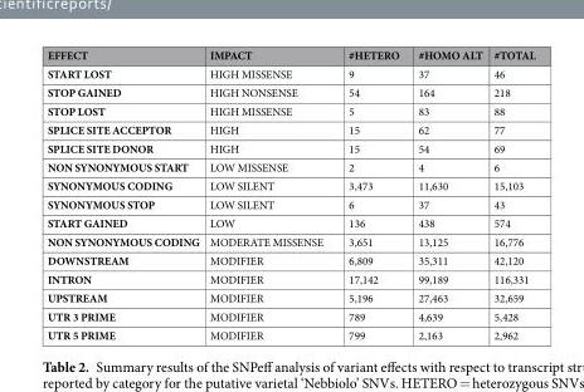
<table><thead><tr><td>EFFECT</td><td>IMPACT</td><td>#HETERO</td><td>#HOMO ALT</td><td>#TOTAL</td></tr></thead><tbody><tr><td>START LOST</td><td>HIGH MISSENSE</td><td>9</td><td>37</td><td>46</td></tr><tr><td>STOP GAINED</td><td>HIGH NONSENSE</td><td>54</td><td>164</td><td>218</td></tr><tr><td>STOP LOST</td><td>HIGH MISSENSE</td><td>5</td><td>83</td><td>88</td></tr><tr><td>SPLICE SITE ACCEPTOR</td><td>HIGH</td><td>15</td><td>62</td><td>77</td></tr><tr><td>SPLICE SITE DONOR</td><td>HIGH</td><td>15</td><td>54</td><td>69</td></tr><tr><td>NON SYNONYMOUS START</td><td>LOW MISSENSE</td><td>2</td><td>4</td><td>6</td></tr><tr><td>SYNONYMOUS CODING</td><td>LOW SILENT</td><td>3,473</td><td>11,630</td><td>15,103</td></tr><tr><td>SYNONYMOUS STOP</td><td>LOW SILENT</td><td>6</td><td>37</td><td>43</td></tr><tr><td>START GAINED</td><td>LOW</td><td>136</td><td>438</td><td>574</td></tr><tr><td>NON SYNONYMOUS CODING</td><td>MODERATE MISSENSE</td><td>3,651</td><td>13,125</td><td>16,776</td></tr><tr><td>DOWNSTREAM</td><td>MODIFIER</td><td>6,809</td><td>35,311</td><td>42,120</td></tr><tr><td>INTRON</td><td>MODIFIER</td><td>17,142</td><td>99,189</td><td>116,331</td></tr><tr><td>UPSTREAM</td><td>MODIFIER</td><td>5,196</td><td>27,463</td><td>32,659</td></tr><tr><td>UTR 3 PRIME</td><td>MODIFIER</td><td>789</td><td>4,639</td><td>5,428</td></tr><tr><td>UTR 5 PRIME</td><td>MODIFIER</td><td>799</td><td>2,163</td><td>2,962</td></tr></tbody></table>